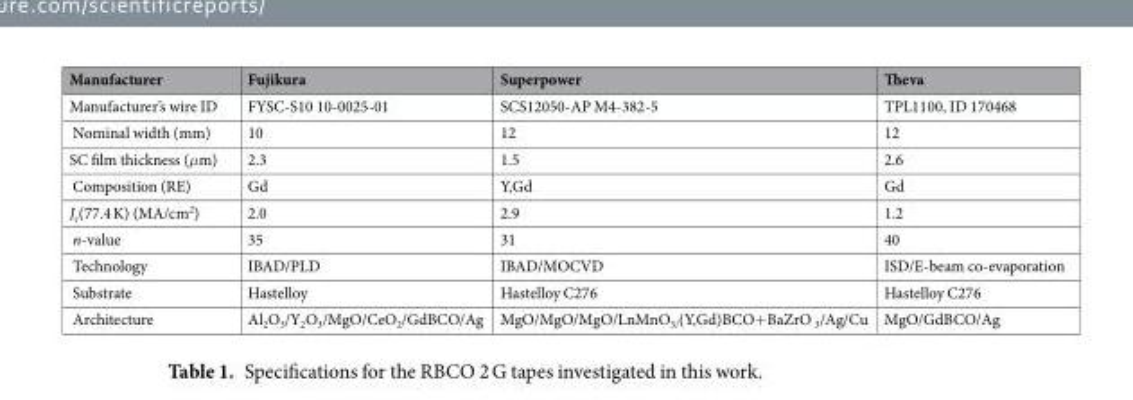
<table><thead><tr><td>Manufacturer</td><td>Fujikura</td><td>Superpower</td><td>Theva</td></tr></thead><tbody><tr><td>Manufacturer’s wire ID</td><td>FYSC-S10 10-0025-01</td><td>SCS12050-AP M4-382-5</td><td>TPL1100, ID 170468</td></tr><tr><td>Nominal width (mm)</td><td>10</td><td>12</td><td>12</td></tr><tr><td>SC film thickness (μm)</td><td>2.3</td><td>1.5</td><td>2.6</td></tr><tr><td>Composition (RE)</td><td>Gd</td><td>Y,Gd</td><td>Gd</td></tr><tr><td>J<sub>c</sub>(77.4 K) (MA/cm<sup>2</sup>)</td><td>2.0</td><td>2.9</td><td>1.2</td></tr><tr><td>n-value</td><td>35</td><td>31</td><td>40</td></tr><tr><td>Technology</td><td>IBAD/PLD</td><td>IBAD/MOCVD</td><td>ISD/E-beam co-evaporation</td></tr><tr><td>Substrate</td><td>Hastelloy</td><td>Hastelloy C276</td><td>Hastelloy C276</td></tr><tr><td>Architecture</td><td>Al<sub>2</sub>O<sub>3</sub>/Y<sub>2</sub>O<sub>3</sub>/MgO/CeO<sub>2</sub>/GdBCO/Ag</td><td>MgO/MgO/MgO/LnMnO<sub>3/</sub>(Y,Gd)BCO+BaZrO <sub>3</sub>/Ag/Cu</td><td>MgO/GdBCO/Ag</td></tr></tbody></table>